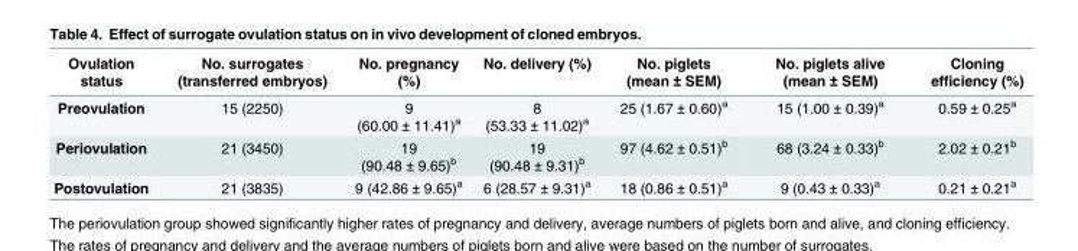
<table><thead><tr><td>Ovulation status</td><td>No. surrogates (transferred embryos)</td><td>No. pregnancy (%)</td><td>No. delivery (%)</td><td>No. piglets (mean ± SEM)</td><td>No. piglets alive (mean ± SEM)</td><td>Cloning efficiency (%)</td></tr></thead><tbody><tr><td>Preovulation</td><td>15 (2250)</td><td>9 (60.00 ± 11.41)<sup>a</sup></td><td>8 (53.33 ± 11.02)<sup>a</sup></td><td>25 (1.67 ± 0.60)<sup>a</sup></td><td>15 (1.00 ± 0.39)<sup>a</sup></td><td>0.59 ± 0.25<sup>a</sup></td></tr><tr><td>Periovulation</td><td>21 (3450)</td><td>19 (90.48 ± 9.65)<sup>b</sup></td><td>19 (90.48 ± 9.31)<sup>b</sup></td><td>97 (4.62 ± 0.51)<sup>b</sup></td><td>68 (3.24 ± 0.33)<sup>b</sup></td><td>2.02 ± 0.21<sup>b</sup></td></tr><tr><td>Postovulation</td><td>21 (3835)</td><td>9 (42.86 ± 9.65)<sup>a</sup></td><td>6 (28.57 ± 9.31)<sup>a</sup></td><td>18 (0.86 ± 0.51)<sup>a</sup></td><td>9 (0.43 ± 0.33)<sup>a</sup></td><td>0.21 ± 0.21<sup>a</sup></td></tr></tbody></table>